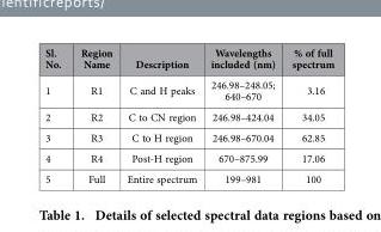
<table><thead><tr><td>Sl. No.</td><td>Region Name</td><td>Description</td><td>Wavelengths included (nm)</td><td>% of full spectrum</td></tr></thead><tbody><tr><td>1</td><td>R1</td><td>C and H peaks</td><td>246.98–248.05; 640–670</td><td>3.16</td></tr><tr><td>2</td><td>R2</td><td>C to CN region</td><td>246.98–424.04</td><td>34.05</td></tr><tr><td>3</td><td>R3</td><td>C to H region</td><td>246.98–670.04</td><td>62.85</td></tr><tr><td>4</td><td>R4</td><td>Post-H region</td><td>670–875.99</td><td>17.06</td></tr><tr><td>5</td><td>Full</td><td>Entire spectrum</td><td>199–981</td><td>100</td></tr></tbody></table>